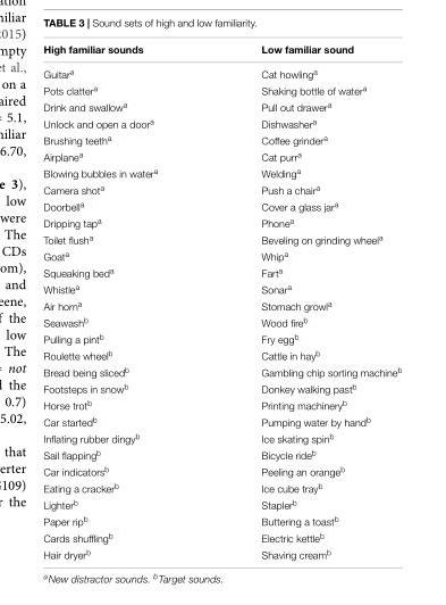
<table><thead><tr><td>High familiar sounds</td><td>Low familiar sound</td></tr></thead><tbody><tr><td>Guitar<sup>a</sup></td><td>Cat howling<sup>a</sup></td></tr><tr><td>Pots clatter<sup>a</sup></td><td>Shaking bottle of water<sup>a</sup></td></tr><tr><td>Drink and swallow<sup>a</sup></td><td>Pull out drawer<sup>a</sup></td></tr><tr><td>Unlock and open a door<sup>a</sup></td><td>Dishwasher<sup>a</sup></td></tr><tr><td>Brushing teeth<sup>a</sup></td><td>Coffee grinder<sup>a</sup></td></tr><tr><td>Airplane<sup>a</sup></td><td>Cat purr<sup>a</sup></td></tr><tr><td>Blowing bubbles in water<sup>a</sup></td><td>Welding<sup>a</sup></td></tr><tr><td>Camera shot<sup>a</sup></td><td>Push a chair<sup>a</sup></td></tr><tr><td>Doorbell<sup>a</sup></td><td>Cover a glass jar<sup>a</sup></td></tr><tr><td>Dripping tap<sup>a</sup></td><td>Phone<sup>a</sup></td></tr><tr><td>Toilet flush<sup>a</sup></td><td>Beveling on grinding wheel<sup>a</sup></td></tr><tr><td>Goat<sup>a</sup></td><td>Whip<sup>a</sup></td></tr><tr><td>Squeaking bed<sup>a</sup></td><td>Fart<sup>a</sup></td></tr><tr><td>Whistle<sup>a</sup></td><td>Sonar<sup>a</sup></td></tr><tr><td>Air horn<sup>a</sup></td><td>Stomach growl<sup>a</sup></td></tr><tr><td>Seawash<sup>b</sup></td><td>Wood fire<sup>b</sup></td></tr><tr><td>Pulling a pint<sup>b</sup></td><td>Fry egg<sup>b</sup></td></tr><tr><td>Roulette wheel<sup>b</sup></td><td>Cattle in hay<sup>b</sup></td></tr><tr><td>Bread being sliced<sup>b</sup></td><td>Gambling chip sorting machine<sup>b</sup></td></tr><tr><td>Footsteps in snow<sup>b</sup></td><td>Donkey walking past<sup>b</sup></td></tr><tr><td>Horse trot<sup>b</sup></td><td>Printing machinery<sup>b</sup></td></tr><tr><td>Car started<sup>b</sup></td><td>Pumping water by hand<sup>b</sup></td></tr><tr><td>Inflating rubber dingy<sup>b</sup></td><td>Ice skating spin<sup>b</sup></td></tr><tr><td>Sail flapping<sup>b</sup></td><td>Bicycle ride<sup>b</sup></td></tr><tr><td>Car indicators<sup>b</sup></td><td>Peeling an orange<sup>b</sup></td></tr><tr><td>Eating a cracker<sup>b</sup></td><td>Ice cube tray<sup>b</sup></td></tr><tr><td>Lighter<sup>b</sup></td><td>Stapler<sup>b</sup></td></tr><tr><td>Paper rip<sup>b</sup></td><td>Buttering a toast<sup>b</sup></td></tr><tr><td>Cards shuffling<sup>b</sup></td><td>Electric kettle<sup>b</sup></td></tr><tr><td>Hair dryer<sup>b</sup></td><td>Shaving cream<sup>b</sup></td></tr></tbody></table>